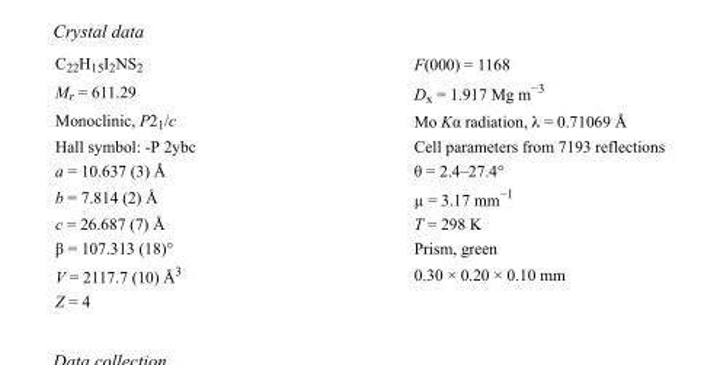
<table><tbody><tr><td>C<sub>22</sub>H<sub>15</sub>I<sub>2</sub>NS<sub>2</sub></td><td>F(000) = 1168</td></tr><tr><td>M<sub>r</sub> = 611.29</td><td>D<sub>x</sub> = 1.917 Mg m<sup>−3</sup></td></tr><tr><td>Monoclinic, P2<sub>1</sub>/c</td><td>Mo Kα radiation, λ = 0.71069 Å</td></tr><tr><td>Hall symbol: -P 2ybc</td><td>Cell parameters from 7193 reflections</td></tr><tr><td>a = 10.637 (3) Å</td><td>θ = 2.4–27.4°</td></tr><tr><td>b = 7.814 (2) Å</td><td>µ = 3.17 mm<sup>−1</sup></td></tr><tr><td>c = 26.687 (7) Å</td><td>T = 298 K</td></tr><tr><td>β = 107.313 (18)°</td><td>Prism, green</td></tr><tr><td>V = 2117.7 (10) Å<sup>3</sup></td><td>0.30 × 0.20 × 0.10 mm</td></tr><tr><td>Z = 4</td><td></td></tr></tbody></table>